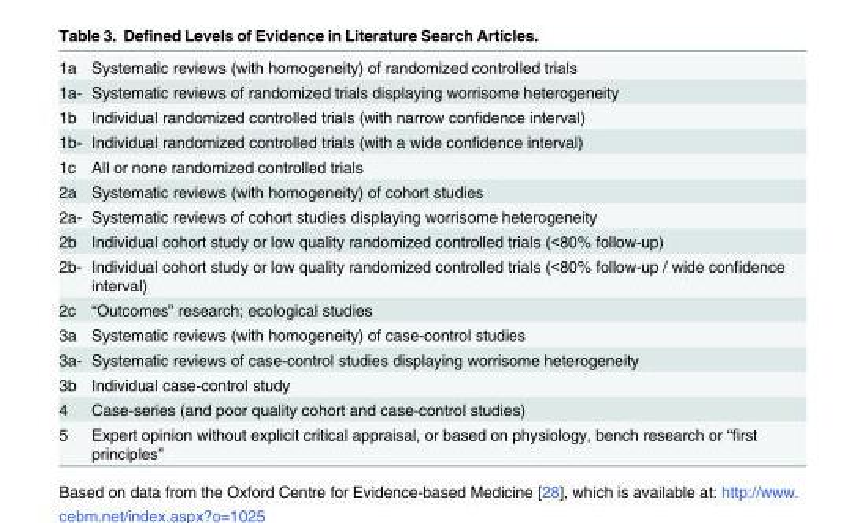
<table><tbody><tr><td>1a</td><td>Systematic reviews (with homogeneity) of randomized controlled trials</td></tr><tr><td>1a-</td><td>Systematic reviews of randomized trials displaying worrisome heterogeneity</td></tr><tr><td>1b</td><td>Individual randomized controlled trials (with narrow confidence interval)</td></tr><tr><td>1b-</td><td>Individual randomized controlled trials (with a wide confidence interval)</td></tr><tr><td>1c</td><td>All or none randomized controlled trials</td></tr><tr><td>2a</td><td>Systematic reviews (with homogeneity) of cohort studies</td></tr><tr><td>2a-</td><td>Systematic reviews of cohort studies displaying worrisome heterogeneity</td></tr><tr><td>2b</td><td>Individual cohort study or low quality randomized controlled trials (&lt;80% follow-up)</td></tr><tr><td>2b-</td><td>Individual cohort study or low quality randomized controlled trials (&lt;80% follow-up / wide confidence interval)</td></tr><tr><td>2c</td><td>“Outcomes” research; ecological studies</td></tr><tr><td>3a</td><td>Systematic reviews (with homogeneity) of case-control studies</td></tr><tr><td>3a-</td><td>Systematic reviews of case-control studies displaying worrisome heterogeneity</td></tr><tr><td>3b</td><td>Individual case-control study</td></tr><tr><td>4</td><td>Case-series (and poor quality cohort and case-control studies)</td></tr><tr><td>5</td><td>Expert opinion without explicit critical appraisal, or based on physiology, bench research or “first principles”</td></tr></tbody></table>